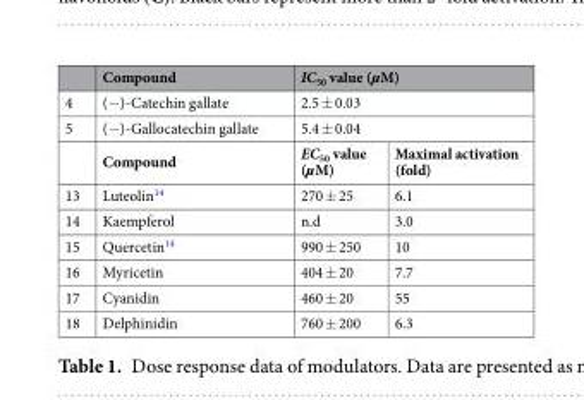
<table><thead><tr><td rowspan="4">4 5</td><td rowspan="4">Compound (−)-Catechin gallate (−)-Gallocatechin gallate Compound</td><td rowspan="3" colspan="2">IC<sub>50</sub> value (µM) 2.5 ± 0.03 5.4 ± 0.04</td></tr><tr></tr><tr></tr><tr><td>EC<sub>50</sub> value (µM)</td><td>Maximal activation (fold)</td></tr></thead><tbody><tr><td>13</td><td>Luteolin<sup>14</sup></td><td>270 ± 25</td><td>6.1</td></tr><tr><td>14</td><td>Kaempferol</td><td>n.d</td><td>3.0</td></tr><tr><td>15</td><td>Quercetin<sup>14</sup></td><td>990 ± 250</td><td>10</td></tr><tr><td>16</td><td>Myricetin</td><td>404 ± 20</td><td>7.7</td></tr><tr><td>17</td><td>Cyanidin</td><td>460 ± 20</td><td>55</td></tr><tr><td>18</td><td>Delphinidin</td><td>760 ± 200</td><td>6.3</td></tr></tbody></table>